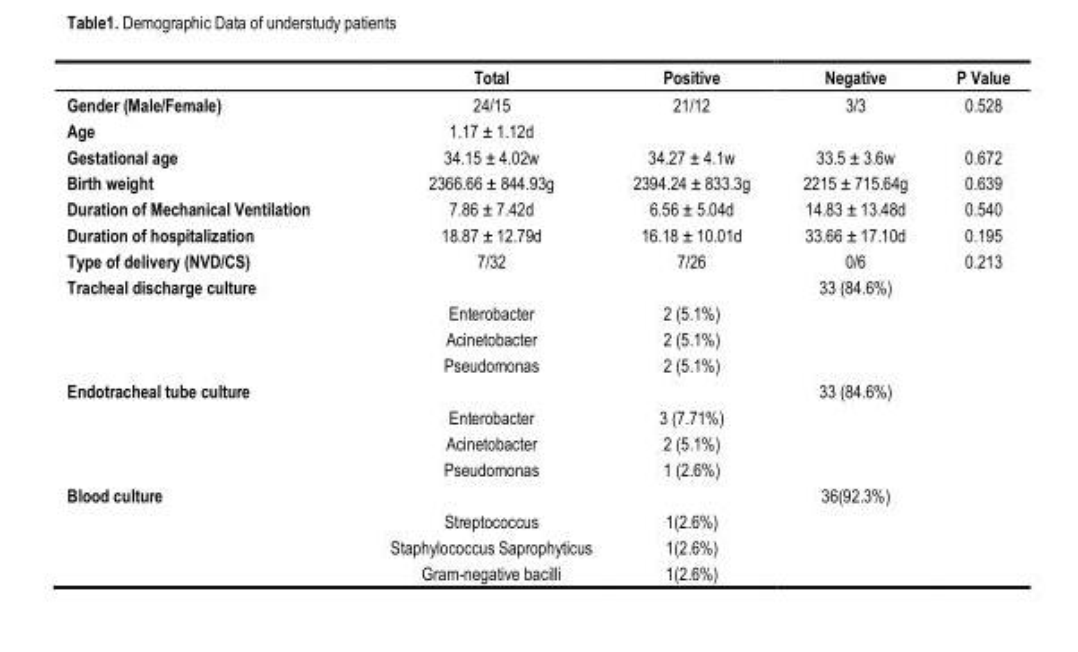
<table><thead><tr><td></td><td>Total</td><td>Positive</td><td>Negative</td><td>P Value</td></tr></thead><tbody><tr><td>Gender (Male/Female)</td><td>24/15</td><td>21/12</td><td>3/3</td><td>0.528</td></tr><tr><td>Age</td><td>1.17 ± 1.12d</td><td></td><td></td><td></td></tr><tr><td>Gestational age</td><td>34.15 ± 4.02w</td><td>34.27 ± 4.1w</td><td>33.5 ± 3.6w</td><td>0.672</td></tr><tr><td>Birth weight</td><td>2366.66 ± 844.93g</td><td>2394.24 ± 833.3g</td><td>2215 ± 715.64g</td><td>0.639</td></tr><tr><td>Duration of Mechanical Ventilation</td><td>7.86 ± 7.42d</td><td>6.56 ± 5.04d</td><td>14.83 ± 13.48d</td><td>0.540</td></tr><tr><td>Duration of hospitalization</td><td>18.87 ± 12.79d</td><td>16.18 ± 10.01d</td><td>33.66 ± 17.10d</td><td>0.195</td></tr><tr><td>Type of delivery (NVD/CS)</td><td>7/32</td><td>7/26</td><td>0/6</td><td>0.213</td></tr><tr><td rowspan="4">Tracheal discharge culture</td><td></td><td></td><td>33 (84.6%)</td><td rowspan="4"></td></tr><tr><td>Enterobacter</td><td>2 (5.1%)</td><td></td></tr><tr><td>Acinetobacter</td><td>2 (5.1%)</td><td></td></tr><tr><td>Pseudomonas</td><td>2 (5.1%)</td><td></td></tr><tr><td rowspan="4">Endotracheal tube culture</td><td></td><td></td><td>33 (84.6%)</td><td rowspan="4"></td></tr><tr><td>Enterobacter</td><td>3 (7.71%)</td><td></td></tr><tr><td>Acinetobacter</td><td>2 (5.1%)</td><td></td></tr><tr><td>Pseudomonas</td><td>1 (2.6%)</td><td></td></tr><tr><td rowspan="4">Blood culture</td><td></td><td></td><td>36(92.3%)</td><td rowspan="4"></td></tr><tr><td>Streptococcus</td><td>1(2.6%)</td><td></td></tr><tr><td>Staphylococcus Saprophyticus</td><td>1(2.6%)</td><td></td></tr><tr><td>Gram-negative bacilli</td><td>1(2.6%)</td><td></td></tr></tbody></table>